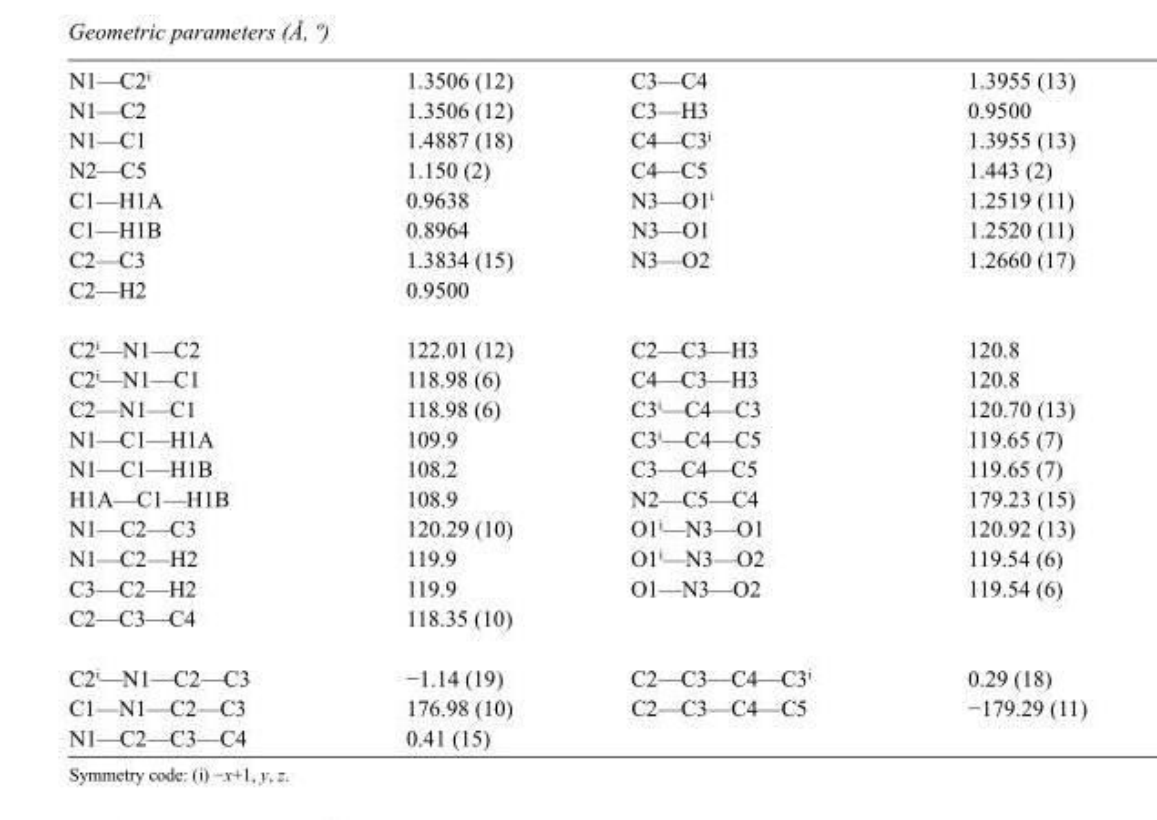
<table><tbody><tr><td>N1—C2<sup>i</sup></td><td>1.3506 (12)</td><td>C3—C4</td><td>1.3955 (13)</td></tr><tr><td>N1—C2</td><td>1.3506 (12)</td><td>C3—H3</td><td>0.9500</td></tr><tr><td>N1—C1</td><td>1.4887 (18)</td><td>C4—C3<sup>i</sup></td><td>1.3955 (13)</td></tr><tr><td>N2—C5</td><td>1.150 (2)</td><td>C4—C5</td><td>1.443 (2)</td></tr><tr><td>C1—H1A</td><td>0.9638</td><td>N3—O1<sup>i</sup></td><td>1.2519 (11)</td></tr><tr><td>C1—H1B</td><td>0.8964</td><td>N3—O1</td><td>1.2520 (11)</td></tr><tr><td>C2—C3</td><td>1.3834 (15)</td><td>N3—O2</td><td>1.2660 (17)</td></tr><tr><td>C2—H2</td><td>0.9500</td><td></td><td></td></tr><tr><td>C2<sup>i</sup>—N1—C2</td><td>122.01 (12)</td><td>C2—C3—H3</td><td>120.8</td></tr><tr><td>C2<sup>i</sup>—N1—C1</td><td>118.98 (6)</td><td>C4—C3—H3</td><td>120.8</td></tr><tr><td>C2—N1—C1</td><td>118.98 (6)</td><td>C3<sup>i</sup>—C4—C3</td><td>120.70 (13)</td></tr><tr><td>N1—C1—H1A</td><td>109.9</td><td>C3<sup>i</sup>—C4—C5</td><td>119.65 (7)</td></tr><tr><td>N1—C1—H1B</td><td>108.2</td><td>C3—C4—C5</td><td>119.65 (7)</td></tr><tr><td>H1A—C1—H1B</td><td>108.9</td><td>N2—C5—C4</td><td>179.23 (15)</td></tr><tr><td>N1—C2—C3</td><td>120.29 (10)</td><td>O1<sup>i</sup>—N3—O1</td><td>120.92 (13)</td></tr><tr><td>N1—C2—H2</td><td>119.9</td><td>O1<sup>i</sup>—N3—O2</td><td>119.54 (6)</td></tr><tr><td>C3—C2—H2</td><td>119.9</td><td>O1—N3—O2</td><td>119.54 (6)</td></tr><tr><td>C2—C3—C4</td><td>118.35 (10)</td><td></td><td></td></tr><tr><td>C2<sup>i</sup>—N1—C2—C3</td><td>−1.14 (19)</td><td>C2—C3—C4—C3<sup>i</sup></td><td>0.29 (18)</td></tr><tr><td>C1—N1—C2—C3</td><td>176.98 (10)</td><td>C2—C3—C4—C5</td><td>−179.29 (11)</td></tr><tr><td>N1—C2—C3—C4</td><td>0.41 (15)</td><td></td><td></td></tr></tbody></table>